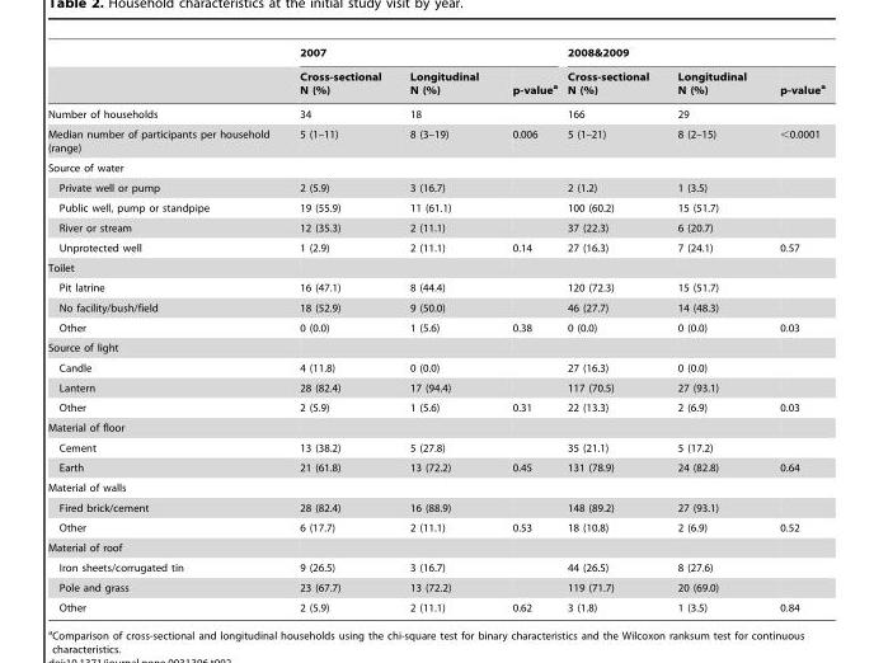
<table><thead><tr><td rowspan="2"></td><td colspan="3">2007</td><td colspan="3">2008&amp;2009</td></tr><tr><td>Cross-sectional N (%)</td><td>Longitudinal N (%)</td><td>p-value<sup>a</sup></td><td>Cross-sectional N (%)</td><td>Longitudinal N (%)</td><td>p-value<sup>a</sup></td></tr></thead><tbody><tr><td>Number of households</td><td>34</td><td>18</td><td></td><td>166</td><td>29</td><td></td></tr><tr><td>Median number of participants per household (range)</td><td>5 (1–11)</td><td>8 (3–19)</td><td>0.006</td><td>5 (1–21)</td><td>8 (2–15)</td><td>&lt;0.0001</td></tr><tr><td colspan="7">Source of water</td></tr><tr><td>Private well or pump</td><td>2 (5.9)</td><td>3 (16.7)</td><td></td><td>2 (1.2)</td><td>1 (3.5)</td><td></td></tr><tr><td>Public well, pump or standpipe</td><td>19 (55.9)</td><td>11 (61.1)</td><td></td><td>100 (60.2)</td><td>15 (51.7)</td><td></td></tr><tr><td>River or stream</td><td>12 (35.3)</td><td>2 (11.1)</td><td></td><td>37 (22.3)</td><td>6 (20.7)</td><td></td></tr><tr><td>Unprotected well</td><td>1 (2.9)</td><td>2 (11.1)</td><td>0.14</td><td>27 (16.3)</td><td>7 (24.1)</td><td>0.57</td></tr><tr><td colspan="7">Toilet</td></tr><tr><td>Pit latrine</td><td>16 (47.1)</td><td>8 (44.4)</td><td></td><td>120 (72.3)</td><td>15 (51.7)</td><td></td></tr><tr><td>No facility/bush/field</td><td>18 (52.9)</td><td>9 (50.0)</td><td></td><td>46 (27.7)</td><td>14 (48.3)</td><td></td></tr><tr><td>Other</td><td>0 (0.0)</td><td>1 (5.6)</td><td>0.38</td><td>0 (0.0)</td><td>0 (0.0)</td><td>0.03</td></tr><tr><td colspan="7">Source of light</td></tr><tr><td>Candle</td><td>4 (11.8)</td><td>0 (0.0)</td><td></td><td>27 (16.3)</td><td>0 (0.0)</td><td></td></tr><tr><td>Lantern</td><td>28 (82.4)</td><td>17 (94.4)</td><td></td><td>117 (70.5)</td><td>27 (93.1)</td><td></td></tr><tr><td>Other</td><td>2 (5.9)</td><td>1 (5.6)</td><td>0.31</td><td>22 (13.3)</td><td>2 (6.9)</td><td>0.03</td></tr><tr><td colspan="7">Material of floor</td></tr><tr><td>Cement</td><td>13 (38.2)</td><td>5 (27.8)</td><td></td><td>35 (21.1)</td><td>5 (17.2)</td><td></td></tr><tr><td>Earth</td><td>21 (61.8)</td><td>13 (72.2)</td><td>0.45</td><td>131 (78.9)</td><td>24 (82.8)</td><td>0.64</td></tr><tr><td colspan="7">Material of walls</td></tr><tr><td>Fired brick/cement</td><td>28 (82.4)</td><td>16 (88.9)</td><td></td><td>148 (89.2)</td><td>27 (93.1)</td><td></td></tr><tr><td>Other</td><td>6 (17.7)</td><td>2 (11.1)</td><td>0.53</td><td>18 (10.8)</td><td>2 (6.9)</td><td>0.52</td></tr><tr><td colspan="7">Material of roof</td></tr><tr><td>Iron sheets/corrugated tin</td><td>9 (26.5)</td><td>3 (16.7)</td><td></td><td>44 (26.5)</td><td>8 (27.6)</td><td></td></tr><tr><td>Pole and grass</td><td>23 (67.7)</td><td>13 (72.2)</td><td></td><td>119 (71.7)</td><td>20 (69.0)</td><td></td></tr><tr><td>Other</td><td>2 (5.9)</td><td>2 (11.1)</td><td>0.62</td><td>3 (1.8)</td><td>1 (3.5)</td><td>0.84</td></tr></tbody></table>